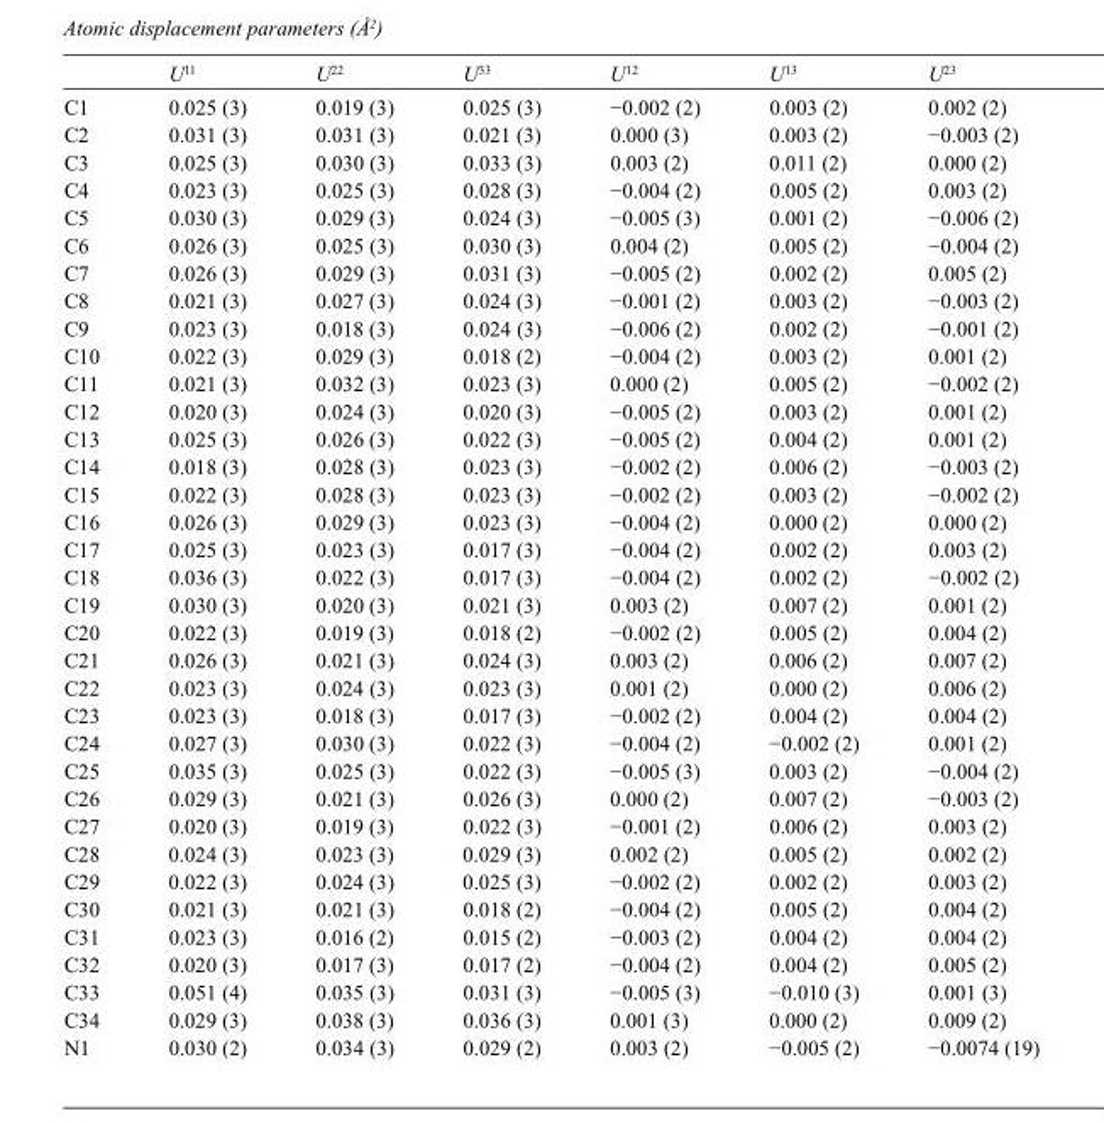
<table><thead><tr><td></td><td>U<sup>11</sup></td><td>U<sup>22</sup></td><td>U<sup>33</sup></td><td>U<sup>12</sup></td><td>U<sup>13</sup></td><td>U<sup>23</sup></td></tr></thead><tbody><tr><td>C1</td><td>0.025 (3)</td><td>0.019 (3)</td><td>0.025 (3)</td><td>−0.002 (2)</td><td>0.003 (2)</td><td>0.002 (2)</td></tr><tr><td>C2</td><td>0.031 (3)</td><td>0.031 (3)</td><td>0.021 (3)</td><td>0.000 (3)</td><td>0.003 (2)</td><td>−0.003 (2)</td></tr><tr><td>C3</td><td>0.025 (3)</td><td>0.030 (3)</td><td>0.033 (3)</td><td>0.003 (2)</td><td>0.011 (2)</td><td>0.000 (2)</td></tr><tr><td>C4</td><td>0.023 (3)</td><td>0.025 (3)</td><td>0.028 (3)</td><td>−0.004 (2)</td><td>0.005 (2)</td><td>0.003 (2)</td></tr><tr><td>C5</td><td>0.030 (3)</td><td>0.029 (3)</td><td>0.024 (3)</td><td>−0.005 (3)</td><td>0.001 (2)</td><td>−0.006 (2)</td></tr><tr><td>C6</td><td>0.026 (3)</td><td>0.025 (3)</td><td>0.030 (3)</td><td>0.004 (2)</td><td>0.005 (2)</td><td>−0.004 (2)</td></tr><tr><td>C7</td><td>0.026 (3)</td><td>0.029 (3)</td><td>0.031 (3)</td><td>−0.005 (2)</td><td>0.002 (2)</td><td>0.005 (2)</td></tr><tr><td>C8</td><td>0.021 (3)</td><td>0.027 (3)</td><td>0.024 (3)</td><td>−0.001 (2)</td><td>0.003 (2)</td><td>−0.003 (2)</td></tr><tr><td>C9</td><td>0.023 (3)</td><td>0.018 (3)</td><td>0.024 (3)</td><td>−0.006 (2)</td><td>0.002 (2)</td><td>−0.001 (2)</td></tr><tr><td>C10</td><td>0.022 (3)</td><td>0.029 (3)</td><td>0.018 (2)</td><td>−0.004 (2)</td><td>0.003 (2)</td><td>0.001 (2)</td></tr><tr><td>C11</td><td>0.021 (3)</td><td>0.032 (3)</td><td>0.023 (3)</td><td>0.000 (2)</td><td>0.005 (2)</td><td>−0.002 (2)</td></tr><tr><td>C12</td><td>0.020 (3)</td><td>0.024 (3)</td><td>0.020 (3)</td><td>−0.005 (2)</td><td>0.003 (2)</td><td>0.001 (2)</td></tr><tr><td>C13</td><td>0.025 (3)</td><td>0.026 (3)</td><td>0.022 (3)</td><td>−0.005 (2)</td><td>0.004 (2)</td><td>0.001 (2)</td></tr><tr><td>C14</td><td>0.018 (3)</td><td>0.028 (3)</td><td>0.023 (3)</td><td>−0.002 (2)</td><td>0.006 (2)</td><td>−0.003 (2)</td></tr><tr><td>C15</td><td>0.022 (3)</td><td>0.028 (3)</td><td>0.023 (3)</td><td>−0.002 (2)</td><td>0.003 (2)</td><td>−0.002 (2)</td></tr><tr><td>C16</td><td>0.026 (3)</td><td>0.029 (3)</td><td>0.023 (3)</td><td>−0.004 (2)</td><td>0.000 (2)</td><td>0.000 (2)</td></tr><tr><td>C17</td><td>0.025 (3)</td><td>0.023 (3)</td><td>0.017 (3)</td><td>−0.004 (2)</td><td>0.002 (2)</td><td>0.003 (2)</td></tr><tr><td>C18</td><td>0.036 (3)</td><td>0.022 (3)</td><td>0.017 (3)</td><td>−0.004 (2)</td><td>0.002 (2)</td><td>−0.002 (2)</td></tr><tr><td>C19</td><td>0.030 (3)</td><td>0.020 (3)</td><td>0.021 (3)</td><td>0.003 (2)</td><td>0.007 (2)</td><td>0.001 (2)</td></tr><tr><td>C20</td><td>0.022 (3)</td><td>0.019 (3)</td><td>0.018 (2)</td><td>−0.002 (2)</td><td>0.005 (2)</td><td>0.004 (2)</td></tr><tr><td>C21</td><td>0.026 (3)</td><td>0.021 (3)</td><td>0.024 (3)</td><td>0.003 (2)</td><td>0.006 (2)</td><td>0.007 (2)</td></tr><tr><td>C22</td><td>0.023 (3)</td><td>0.024 (3)</td><td>0.023 (3)</td><td>0.001 (2)</td><td>0.000 (2)</td><td>0.006 (2)</td></tr><tr><td>C23</td><td>0.023 (3)</td><td>0.018 (3)</td><td>0.017 (3)</td><td>−0.002 (2)</td><td>0.004 (2)</td><td>0.004 (2)</td></tr><tr><td>C24</td><td>0.027 (3)</td><td>0.030 (3)</td><td>0.022 (3)</td><td>−0.004 (2)</td><td>−0.002 (2)</td><td>0.001 (2)</td></tr><tr><td>C25</td><td>0.035 (3)</td><td>0.025 (3)</td><td>0.022 (3)</td><td>−0.005 (3)</td><td>0.003 (2)</td><td>−0.004 (2)</td></tr><tr><td>C26</td><td>0.029 (3)</td><td>0.021 (3)</td><td>0.026 (3)</td><td>0.000 (2)</td><td>0.007 (2)</td><td>−0.003 (2)</td></tr><tr><td>C27</td><td>0.020 (3)</td><td>0.019 (3)</td><td>0.022 (3)</td><td>−0.001 (2)</td><td>0.006 (2)</td><td>0.003 (2)</td></tr><tr><td>C28</td><td>0.024 (3)</td><td>0.023 (3)</td><td>0.029 (3)</td><td>0.002 (2)</td><td>0.005 (2)</td><td>0.002 (2)</td></tr><tr><td>C29</td><td>0.022 (3)</td><td>0.024 (3)</td><td>0.025 (3)</td><td>−0.002 (2)</td><td>0.002 (2)</td><td>0.003 (2)</td></tr><tr><td>C30</td><td>0.021 (3)</td><td>0.021 (3)</td><td>0.018 (2)</td><td>−0.004 (2)</td><td>0.005 (2)</td><td>0.004 (2)</td></tr><tr><td>C31</td><td>0.023 (3)</td><td>0.016 (2)</td><td>0.015 (2)</td><td>−0.003 (2)</td><td>0.004 (2)</td><td>0.004 (2)</td></tr><tr><td>C32</td><td>0.020 (3)</td><td>0.017 (3)</td><td>0.017 (2)</td><td>−0.004 (2)</td><td>0.004 (2)</td><td>0.005 (2)</td></tr><tr><td>C33</td><td>0.051 (4)</td><td>0.035 (3)</td><td>0.031 (3)</td><td>−0.005 (3)</td><td>−0.010 (3)</td><td>0.001 (3)</td></tr><tr><td>C34</td><td>0.029 (3)</td><td>0.038 (3)</td><td>0.036 (3)</td><td>0.001 (3)</td><td>0.000 (2)</td><td>0.009 (2)</td></tr><tr><td>N1</td><td>0.030 (2)</td><td>0.034 (3)</td><td>0.029 (2)</td><td>0.003 (2)</td><td>−0.005 (2)</td><td>−0.0074 (19)</td></tr></tbody></table>